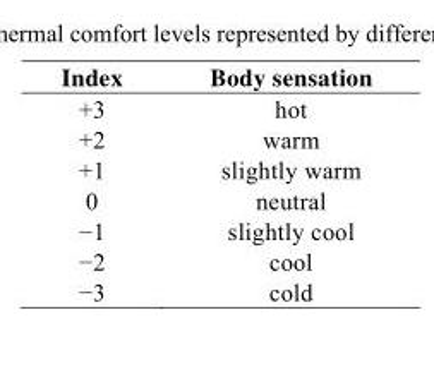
<table><thead><tr><td>Index</td><td>Body sensation</td></tr></thead><tbody><tr><td>+3</td><td>hot</td></tr><tr><td>+2</td><td>warm</td></tr><tr><td>+1</td><td>slightly warm</td></tr><tr><td>0</td><td>neutral</td></tr><tr><td>−1</td><td>slightly cool</td></tr><tr><td>−2</td><td>cool</td></tr><tr><td>−3</td><td>cold</td></tr></tbody></table>